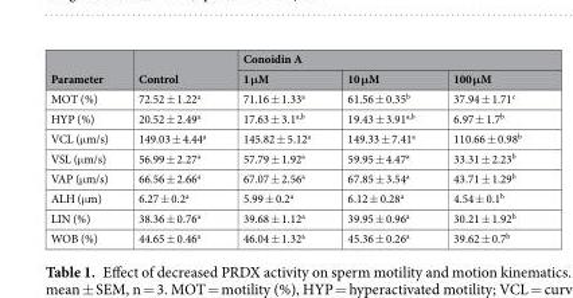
<table><thead><tr><td rowspan="2">Parameter</td><td rowspan="2">Control</td><td colspan="3">Conoidin A</td></tr><tr><td>1 μM</td><td>10 μM</td><td>100 μM</td></tr></thead><tbody><tr><td>MOT (%)</td><td>72.52 ± 1.22<sup>a</sup></td><td>71.16 ± 1.33<sup>a</sup></td><td>61.56 ± 0.35<sup>b</sup></td><td>37.94 ± 1.71<sup>c</sup></td></tr><tr><td>HYP (%)</td><td>20.52 ± 2.49<sup>a</sup></td><td>17.63 ± 3.1<sup>a,b</sup></td><td>19.43 ± 3.91<sup>a,b</sup></td><td>6.97 ± 1.7<sup>b</sup></td></tr><tr><td>VCL (μm/s)</td><td>149.03 ± 4.44<sup>a</sup></td><td>145.82 ± 5.12<sup>a</sup></td><td>149.33 ± 7.41<sup>a</sup></td><td>110.66 ± 0.98<sup>b</sup></td></tr><tr><td>VSL (μm/s)</td><td>56.99 ± 2.27<sup>a</sup></td><td>57.79 ± 1.92<sup>a</sup></td><td>59.95 ± 4.47<sup>a</sup></td><td>33.31 ± 2.23<sup>b</sup></td></tr><tr><td>VAP (μm/s)</td><td>66.56 ± 2.66<sup>a</sup></td><td>67.07 ± 2.56<sup>a</sup></td><td>67.85 ± 3.54<sup>a</sup></td><td>43.71 ± 1.29<sup>b</sup></td></tr><tr><td>ALH (μm)</td><td>6.27 ± 0.2<sup>a</sup></td><td>5.99 ± 0.2<sup>a</sup></td><td>6.12 ± 0.28<sup>a</sup></td><td>4.54 ± 0.1<sup>b</sup></td></tr><tr><td>LIN (%)</td><td>38.36 ± 0.76<sup>a</sup></td><td>39.68 ± 1.12<sup>a</sup></td><td>39.95 ± 0.96<sup>a</sup></td><td>30.21 ± 1.92<sup>b</sup></td></tr><tr><td>WOB (%)</td><td>44.65 ± 0.46<sup>a</sup></td><td>46.04 ± 1.32<sup>a</sup></td><td>45.36 ± 0.26<sup>a</sup></td><td>39.62 ± 0.7<sup>b</sup></td></tr></tbody></table>